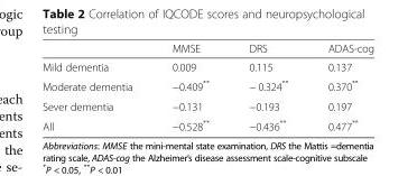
<table><thead><tr><td></td><td>MMSE</td><td>DRS</td><td>ADAS-cog</td></tr></thead><tbody><tr><td>Mild dementia</td><td>0.009</td><td>0.115</td><td>0.137</td></tr><tr><td>Moderate dementia</td><td>−0.409**</td><td>− 0.324**</td><td>0.370**</td></tr><tr><td>Sever dementia</td><td>−0.131</td><td>−0.193</td><td>0.197</td></tr><tr><td>All</td><td>−0.528**</td><td>−0.436**</td><td>0.477**</td></tr></tbody></table>